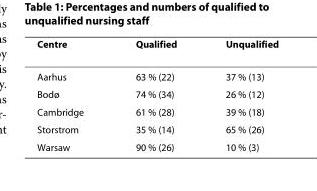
<table><thead><tr><td>Centre</td><td>Qualified</td><td>Unqualified</td></tr></thead><tbody><tr><td>Aarhus</td><td>63 % (22)</td><td>37 % (13)</td></tr><tr><td>Bodø</td><td>74 % (34)</td><td>26 % (12)</td></tr><tr><td>Cambridge</td><td>61 % (28)</td><td>39 % (18)</td></tr><tr><td>Storstrom</td><td>35 % (14)</td><td>65 % (26)</td></tr><tr><td>Warsaw</td><td>90 % (26)</td><td>10 % (3)</td></tr></tbody></table>